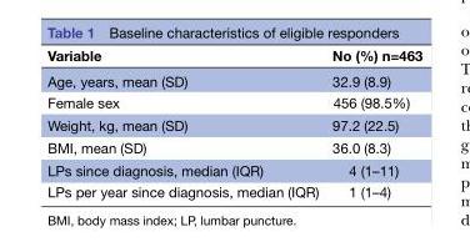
<table><thead><tr><td>Variable</td><td>No (%) n=463</td></tr></thead><tbody><tr><td>Age, years, mean (SD)</td><td>32.9 (8.9)</td></tr><tr><td>Female sex</td><td>456 (98.5%)</td></tr><tr><td>Weight, kg, mean (SD)</td><td>97.2 (22.5)</td></tr><tr><td>BMI, mean (SD)</td><td>36.0 (8.3)</td></tr><tr><td>LPs since diagnosis, median (IQR)</td><td>4 (1–11)</td></tr><tr><td>LPs per year since diagnosis, median (IQR)</td><td>1 (1–4)</td></tr></tbody></table>